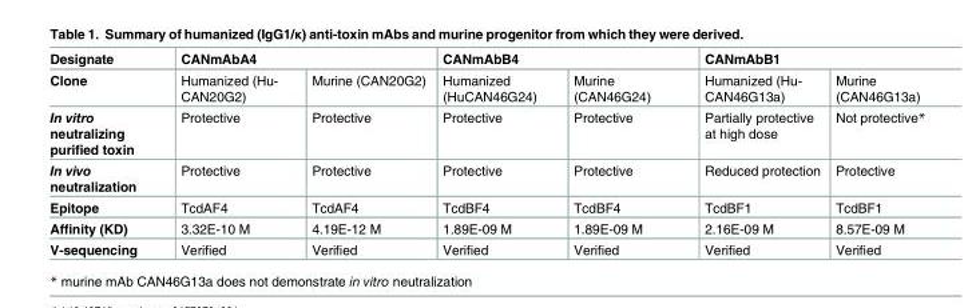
<table><thead><tr><td rowspan="2">Designate Clone</td><td colspan="2">CANmAbA4</td><td colspan="2">CANmAbB4</td><td colspan="2">CANmAbB1</td></tr><tr><td>Humanized (Hu- CAN20G2)</td><td>Murine (CAN20G2)</td><td>Humanized (HuCAN46G24)</td><td>Murine (CAN46G24)</td><td>Humanized (Hu- CAN46G13a)</td><td>Murine (CAN46G13a)</td></tr></thead><tbody><tr><td>In vitro neutralizing purified toxin</td><td>Protective</td><td>Protective</td><td>Protective</td><td>Protective</td><td>Partially protective at high dose</td><td>Not protective*</td></tr><tr><td>In vivo neutralization</td><td>Protective</td><td>Protective</td><td>Protective</td><td>Protective</td><td>Reduced protection</td><td>Protective</td></tr><tr><td>Epitope</td><td>TcdAF4</td><td>TcdAF4</td><td>TcdBF4</td><td>TcdBF4</td><td>TcdBF1</td><td>TcdBF1</td></tr><tr><td>Affinity (KD)</td><td>3.32E-10 M</td><td>4.19E-12 M</td><td>1.89E-09 M</td><td>1.89E-09 M</td><td>2.16E-09 M</td><td>8.57E-09 M</td></tr><tr><td>V-sequencing</td><td>Verified</td><td>Verified</td><td>Verified</td><td>Verified</td><td>Verified</td><td>Verified</td></tr></tbody></table>